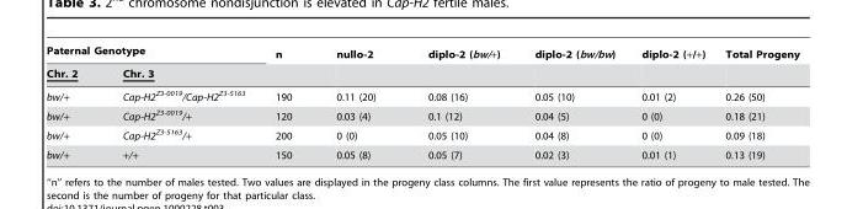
<table><thead><tr><td colspan="2">Paternal Genotype</td><td rowspan="2">n</td><td rowspan="2">nullo-2</td><td rowspan="2">diplo-2 (bw/+)</td><td rowspan="2">diplo-2 (bw/bw)</td><td rowspan="2">diplo-2 (+/+)</td><td rowspan="2">Total Progeny</td></tr><tr><td>Chr. 2</td><td>Chr. 3</td></tr></thead><tbody><tr><td>bw/+</td><td>Cap-H2<sup>Z3-0019</sup>/Cap-H2<sup>Z3-5163</sup></td><td>190</td><td>0.11 (20)</td><td>0.08 (16)</td><td>0.05 (10)</td><td>0.01 (2)</td><td>0.26 (50)</td></tr><tr><td>bw/+</td><td>Cap-H2<sup>Z3-0019</sup>/+</td><td>120</td><td>0.03 (4)</td><td>0.1 (12)</td><td>0.04 (5)</td><td>0 (0)</td><td>0.18 (21)</td></tr><tr><td>bw/+</td><td>Cap-H2<sup>Z3-5163</sup>/+</td><td>200</td><td>0 (0)</td><td>0.05 (10)</td><td>0.04 (8)</td><td>0 (0)</td><td>0.09 (18)</td></tr><tr><td>bw/+</td><td>+/+</td><td>150</td><td>0.05 (8)</td><td>0.05 (7)</td><td>0.02 (3)</td><td>0.01 (1)</td><td>0.13 (19)</td></tr></tbody></table>